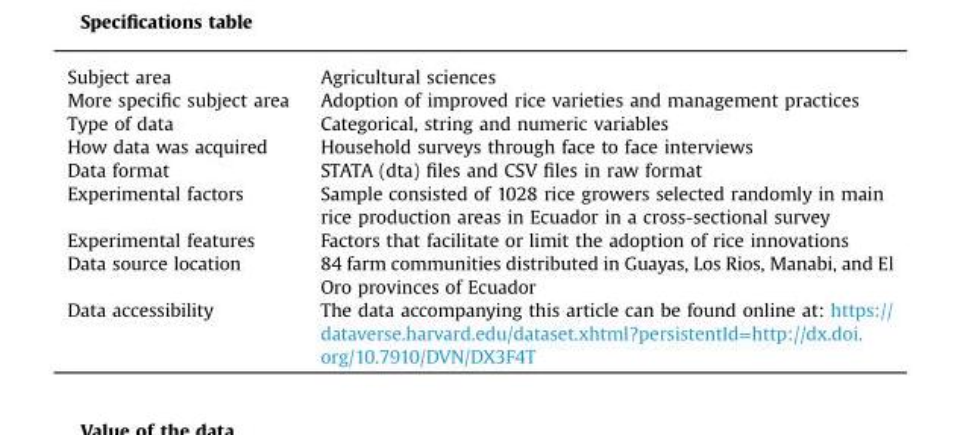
<table><tbody><tr><td>Subject area</td><td>Agricultural sciences</td></tr><tr><td>More specific subject area</td><td>Adoption of improved rice varieties and management practices</td></tr><tr><td>Type of data</td><td>Categorical, string and numeric variables</td></tr><tr><td>How data was acquired</td><td>Household surveys through face to face interviews</td></tr><tr><td>Data format</td><td>STATA (dta) files and CSV files in raw format</td></tr><tr><td>Experimental factors</td><td>Sample consisted of 1028 rice growers selected randomly in main rice production areas in Ecuador in a cross-sectional survey</td></tr><tr><td>Experimental features</td><td>Factors that facilitate or limit the adoption of rice innovations</td></tr><tr><td>Data source location</td><td>84 farm communities distributed in Guayas, Los Rios, Manabi, and El Oro provinces of Ecuador</td></tr><tr><td>Data accessibility</td><td>The data accompanying this article can be found online at: https:// dataverse.harvard.edu/dataset.xhtml?persistentId=http://dx.doi. org/10.7910/DVN/DX3F4T</td></tr></tbody></table>